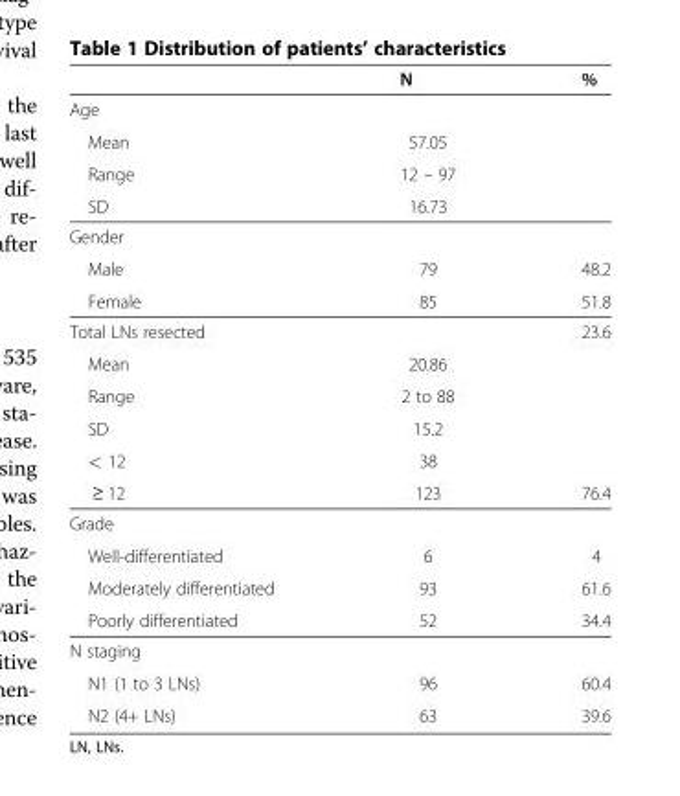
<table><thead><tr><td></td><td>N</td><td>%</td></tr></thead><tbody><tr><td colspan="3">Age</td></tr><tr><td>Mean</td><td>57.05</td><td></td></tr><tr><td>Range</td><td>12 – 97</td><td></td></tr><tr><td>SD</td><td>16.73</td><td></td></tr><tr><td colspan="3">Gender</td></tr><tr><td>Male</td><td>79</td><td>48.2</td></tr><tr><td>Female</td><td>85</td><td>51.8</td></tr><tr><td>Total LNs resected</td><td></td><td>23.6</td></tr><tr><td>Mean</td><td>20.86</td><td></td></tr><tr><td>Range</td><td>2 to 88</td><td></td></tr><tr><td>SD</td><td>15.2</td><td></td></tr><tr><td>&lt; 12</td><td>38</td><td></td></tr><tr><td>≥ 12</td><td>123</td><td>76.4</td></tr><tr><td colspan="3">Grade</td></tr><tr><td>Well-differentiated</td><td>6</td><td>4</td></tr><tr><td>Moderately differentiated</td><td>93</td><td>61.6</td></tr><tr><td>Poorly differentiated</td><td>52</td><td>34.4</td></tr><tr><td colspan="3">N staging</td></tr><tr><td>N1 (1 to 3 LNs)</td><td>96</td><td>60.4</td></tr><tr><td>N2 (4+ LNs)</td><td>63</td><td>39.6</td></tr></tbody></table>